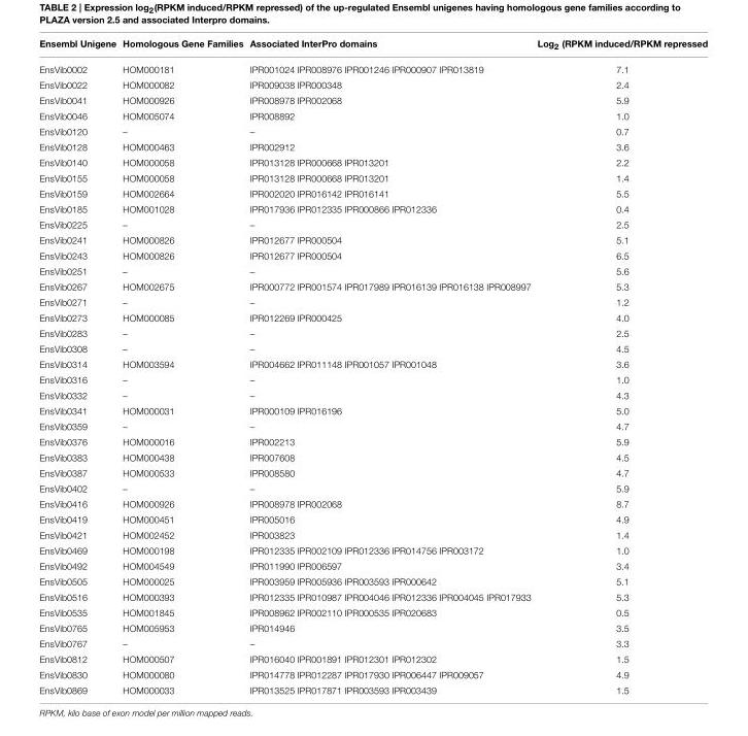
<table><thead><tr><td>Ensembl Unigene</td><td>Homologous Gene Families</td><td>Associated InterPro domains</td><td>Log<sub>2</sub> (RPKM induced/RPKM repressed</td></tr></thead><tbody><tr><td>EnsVib0002</td><td>HOM000181</td><td>IPR001024 IPR008976 IPR001246 IPR000907 IPR013819</td><td>7.1</td></tr><tr><td>EnsVib0022</td><td>HOM000082</td><td>IPR009038 IPR000348</td><td>2.4</td></tr><tr><td>EnsVib0041</td><td>HOM000926</td><td>IPR008978 IPR002068</td><td>5.9</td></tr><tr><td>EnsVib0046</td><td>HOM005074</td><td>IPR008892</td><td>1.0</td></tr><tr><td>EnsVib0120</td><td>–</td><td>–</td><td>0.7</td></tr><tr><td>EnsVib0128</td><td>HOM000463</td><td>IPR002912</td><td>3.6</td></tr><tr><td>EnsVib0140</td><td>HOM000058</td><td>IPR013128 IPR000668 IPR013201</td><td>2.2</td></tr><tr><td>EnsVib0155</td><td>HOM000058</td><td>IPR013128 IPR000668 IPR013201</td><td>1.4</td></tr><tr><td>EnsVib0159</td><td>HOM002664</td><td>IPR002020 IPR016142 IPR016141</td><td>5.5</td></tr><tr><td>EnsVib0185</td><td>HOM001028</td><td>IPR017936 IPR012335 IPR000866 IPR012336</td><td>0.4</td></tr><tr><td>EnsVib0225</td><td>–</td><td>–</td><td>2.5</td></tr><tr><td>EnsVib0241</td><td>HOM000826</td><td>IPR012677 IPR000504</td><td>5.1</td></tr><tr><td>EnsVib0243</td><td>HOM000826</td><td>IPR012677 IPR000504</td><td>6.5</td></tr><tr><td>EnsVib0251</td><td>–</td><td>–</td><td>5.6</td></tr><tr><td>EnsVib0267</td><td>HOM002675</td><td>IPR000772 IPR001574 IPR017989 IPR016139 IPR016138 IPR008997</td><td>5.3</td></tr><tr><td>EnsVib0271</td><td>–</td><td>–</td><td>1.2</td></tr><tr><td>EnsVib0273</td><td>HOM000085</td><td>IPR012269 IPR000425</td><td>4.0</td></tr><tr><td>EnsVib0283</td><td>–</td><td>–</td><td>2.5</td></tr><tr><td>EnsVib0308</td><td>–</td><td>–</td><td>4.5</td></tr><tr><td>EnsVib0314</td><td>HOM003594</td><td>IPR004662 IPR011148 IPR001057 IPR001048</td><td>3.6</td></tr><tr><td>EnsVib0316</td><td>–</td><td>–</td><td>1.0</td></tr><tr><td>EnsVib0332</td><td>–</td><td>–</td><td>4.3</td></tr><tr><td>EnsVib0341</td><td>HOM000031</td><td>IPR000109 IPR016196</td><td>5.0</td></tr><tr><td>EnsVib0359</td><td>–</td><td>–</td><td>4.7</td></tr><tr><td>EnsVib0376</td><td>HOM000016</td><td>IPR002213</td><td>5.9</td></tr><tr><td>EnsVib0383</td><td>HOM000438</td><td>IPR007608</td><td>4.5</td></tr><tr><td>EnsVib0387</td><td>HOM000533</td><td>IPR008580</td><td>4.7</td></tr><tr><td>EnsVib0402</td><td>–</td><td>–</td><td>5.9</td></tr><tr><td>EnsVib0416</td><td>HOM000926</td><td>IPR008978 IPR002068</td><td>8.7</td></tr><tr><td>EnsVib0419</td><td>HOM000451</td><td>IPR005016</td><td>4.9</td></tr><tr><td>EnsVib0421</td><td>HOM002452</td><td>IPR003823</td><td>1.4</td></tr><tr><td>EnsVib0469</td><td>HOM000198</td><td>IPR012335 IPR002109 IPR012336 IPR014756 IPR003172</td><td>1.0</td></tr><tr><td>EnsVib0492</td><td>HOM004549</td><td>IPR011990 IPR006597</td><td>3.4</td></tr><tr><td>EnsVib0505</td><td>HOM000025</td><td>IPR003959 IPR005936 IPR003593 IPR000642</td><td>5.1</td></tr><tr><td>EnsVib0516</td><td>HOM000393</td><td>IPR012335 IPR010987 IPR004046 IPR012336 IPR004045 IPR017933</td><td>5.3</td></tr><tr><td>EnsVib0535</td><td>HOM001845</td><td>IPR008962 IPR002110 IPR000535 IPR020683</td><td>0.5</td></tr><tr><td>EnsVib0765</td><td>HOM005953</td><td>IPR014946</td><td>3.5</td></tr><tr><td>EnsVib0767</td><td>–</td><td>–</td><td>3.3</td></tr><tr><td>EnsVib0812</td><td>HOM000507</td><td>IPR016040 IPR001891 IPR012301 IPR012302</td><td>1.5</td></tr><tr><td>EnsVib0830</td><td>HOM000080</td><td>IPR014778 IPR012287 IPR017930 IPR006447 IPR009057</td><td>4.9</td></tr><tr><td>EnsVib0869</td><td>HOM000033</td><td>IPR013525 IPR017871 IPR003593 IPR003439</td><td>1.5</td></tr></tbody></table>